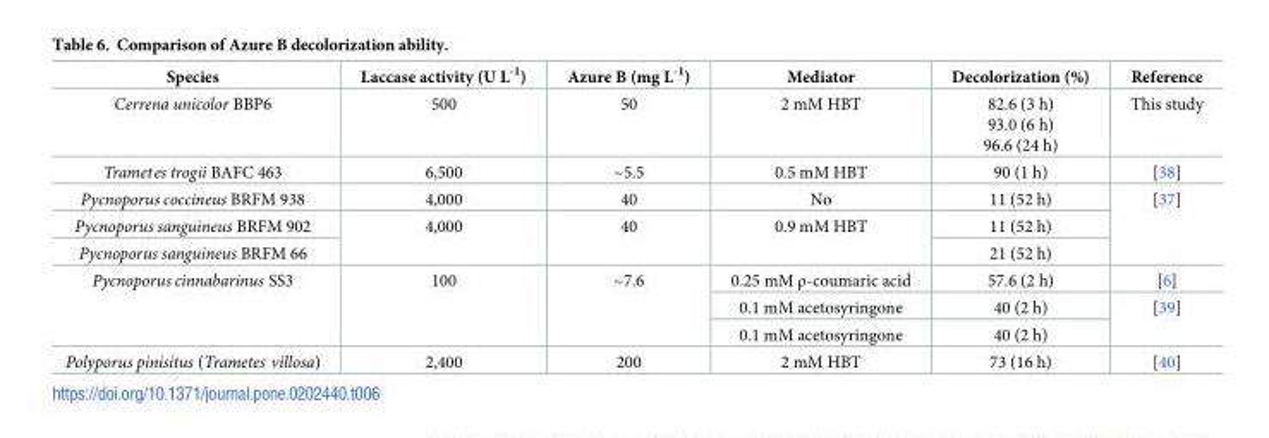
<table><thead><tr><td>Species</td><td>Laccase activity (U L<sup>-1</sup>)</td><td>Azure B (mg L<sup>-1</sup>)</td><td>Mediator</td><td>Decolorization (%)</td><td>Reference</td></tr></thead><tbody><tr><td>Cerrena unicolor BBP6</td><td>500</td><td>50</td><td>2 mM HBT</td><td>82.6 (3 h) 93.0 (6 h) 96.6 (24 h)</td><td>This study</td></tr><tr><td>Trametes trogii BAFC 463</td><td>6,500</td><td>~5.5</td><td>0.5 mM HBT</td><td>90 (1 h)</td><td>[38]</td></tr><tr><td>Pycnoporus coccineus BRFM 938</td><td>4,000</td><td>40</td><td>No</td><td>11 (52 h)</td><td rowspan="3">[37]</td></tr><tr><td>Pycnoporus sanguineus BRFM 902</td><td rowspan="2">4,000</td><td rowspan="2">40</td><td rowspan="2">0.9 mM HBT</td><td>11 (52 h)</td></tr><tr><td>Pycnoporus sanguineus BRFM 66</td><td>21 (52 h)</td></tr><tr><td rowspan="3">Pycnoporus cinnabarinus SS3</td><td rowspan="3">100</td><td rowspan="3">~7.6</td><td>0.25 mM ρ-coumaric acid</td><td>57.6 (2 h)</td><td>[6]</td></tr><tr><td>0.1 mM acetosyringone</td><td>40 (2 h)</td><td rowspan="2">[39]</td></tr><tr><td>0.1 mM acetosyringone</td><td>40 (2 h)</td></tr><tr><td>Polyporus pinisitus (Trametes villosa)</td><td>2,400</td><td>200</td><td>2 mM HBT</td><td>73 (16 h)</td><td>[40]</td></tr></tbody></table>